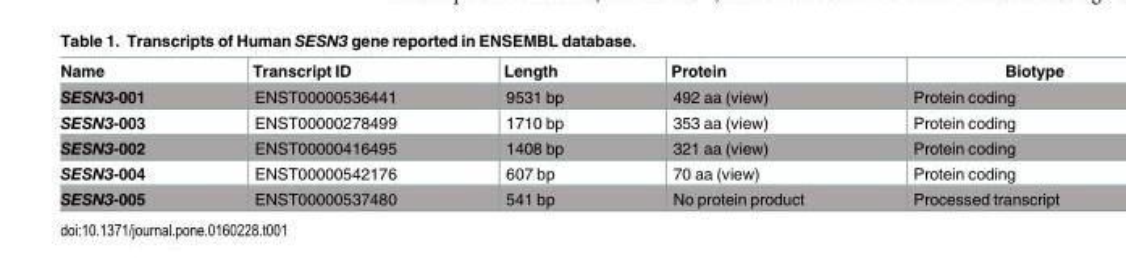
<table><thead><tr><td>Name</td><td>Transcript ID</td><td>Length</td><td>Protein</td><td>Biotype</td></tr></thead><tbody><tr><td>SESN3-001</td><td>ENST00000536441</td><td>9531 bp</td><td>492 aa (view)</td><td>Protein coding</td></tr><tr><td>SESN3-003</td><td>ENST00000278499</td><td>1710 bp</td><td>353 aa (view)</td><td>Protein coding</td></tr><tr><td>SESN3-002</td><td>ENST00000416495</td><td>1408 bp</td><td>321 aa (view)</td><td>Protein coding</td></tr><tr><td>SESN3-004</td><td>ENST00000542176</td><td>607 bp</td><td>70 aa (view)</td><td>Protein coding</td></tr><tr><td>SESN3-005</td><td>ENST00000537480</td><td>541 bp</td><td>No protein product</td><td>Processed transcript</td></tr></tbody></table>